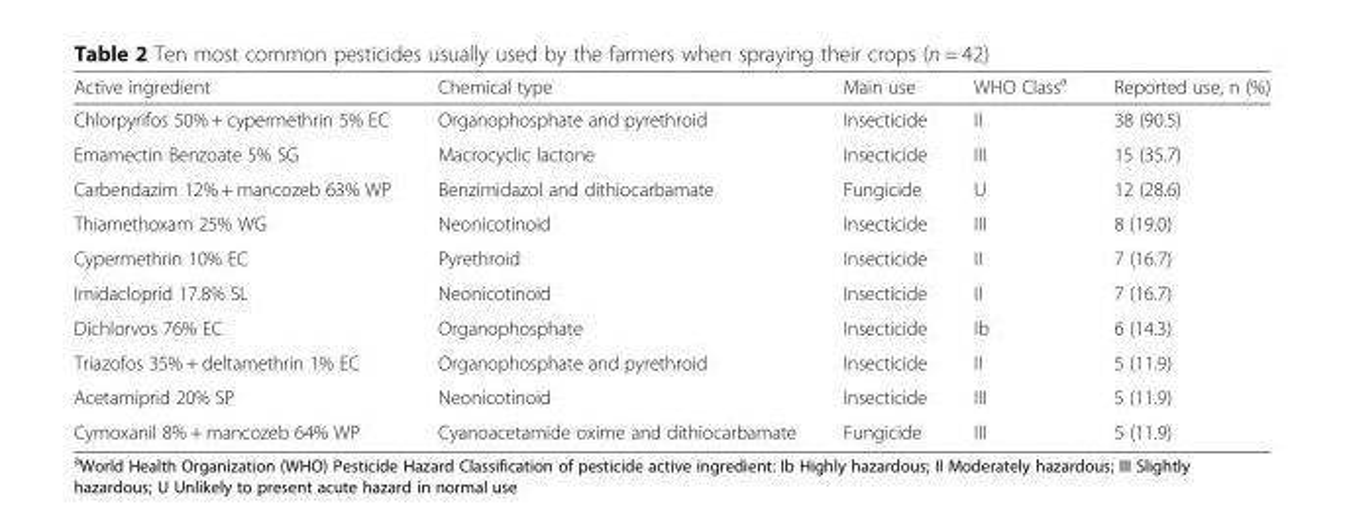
<table><thead><tr><td>Active ingredient</td><td>Chemical type</td><td>Main use</td><td>WHO Class<sup>a</sup></td><td>Reported use, n (%)</td></tr></thead><tbody><tr><td>Chlorpyrifos 50% + cypermethrin 5% EC</td><td>Organophosphate and pyrethroid</td><td>Insecticide</td><td>II</td><td>38 (90.5)</td></tr><tr><td>Emamectin Benzoate 5% SG</td><td>Macrocyclic lactone</td><td>Insecticide</td><td>III</td><td>15 (35.7)</td></tr><tr><td>Carbendazim 12% + mancozeb 63% WP</td><td>Benzimidazol and dithiocarbamate</td><td>Fungicide</td><td>U</td><td>12 (28.6)</td></tr><tr><td>Thiamethoxam 25% WG</td><td>Neonicotinoid</td><td>Insecticide</td><td>III</td><td>8 (19.0)</td></tr><tr><td>Cypermethrin 10% EC</td><td>Pyrethroid</td><td>Insecticide</td><td>II</td><td>7 (16.7)</td></tr><tr><td>Imidacloprid 17.8% SL</td><td>Neonicotinoid</td><td>Insecticide</td><td>II</td><td>7 (16.7)</td></tr><tr><td>Dichlorvos 76% EC</td><td>Organophosphate</td><td>Insecticide</td><td>Ib</td><td>6 (14.3)</td></tr><tr><td>Triazofos 35% + deltamethrin 1% EC</td><td>Organophosphate and pyrethroid</td><td>Insecticide</td><td>II</td><td>5 (11.9)</td></tr><tr><td>Acetamiprid 20% SP</td><td>Neonicotinoid</td><td>Insecticide</td><td>III</td><td>5 (11.9)</td></tr><tr><td>Cymoxanil 8% + mancozeb 64% WP</td><td>Cyanoacetamide oxime and dithiocarbamate</td><td>Fungicide</td><td>III</td><td>5 (11.9)</td></tr></tbody></table>